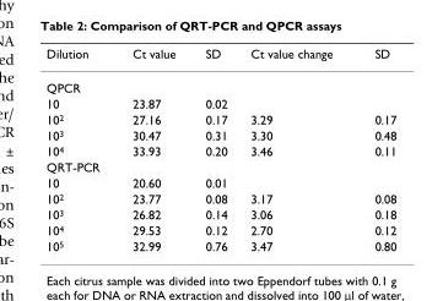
<table><thead><tr><td>Dilution</td><td>Ct value</td><td>SD</td><td>Ct value change</td><td>SD</td></tr></thead><tbody><tr><td colspan="5">QPCR</td></tr><tr><td>10</td><td>23.87</td><td>0.02</td><td></td><td></td></tr><tr><td>10<sup>2</sup></td><td>27.16</td><td>0.17</td><td>3.29</td><td>0.17</td></tr><tr><td>10<sup>3</sup></td><td>30.47</td><td>0.31</td><td>3.30</td><td>0.48</td></tr><tr><td>10<sup>4</sup></td><td>33.93</td><td>0.20</td><td>3.46</td><td>0.11</td></tr><tr><td colspan="5">QRT-PCR</td></tr><tr><td>10</td><td>20.60</td><td>0.01</td><td></td><td></td></tr><tr><td>10<sup>2</sup></td><td>23.77</td><td>0.08</td><td>3.17</td><td>0.08</td></tr><tr><td>10<sup>3</sup></td><td>26.82</td><td>0.14</td><td>3.06</td><td>0.18</td></tr><tr><td>10<sup>4</sup></td><td>29.53</td><td>0.12</td><td>2.70</td><td>0.12</td></tr><tr><td>10<sup>5</sup></td><td>32.99</td><td>0.76</td><td>3.47</td><td>0.80</td></tr></tbody></table>